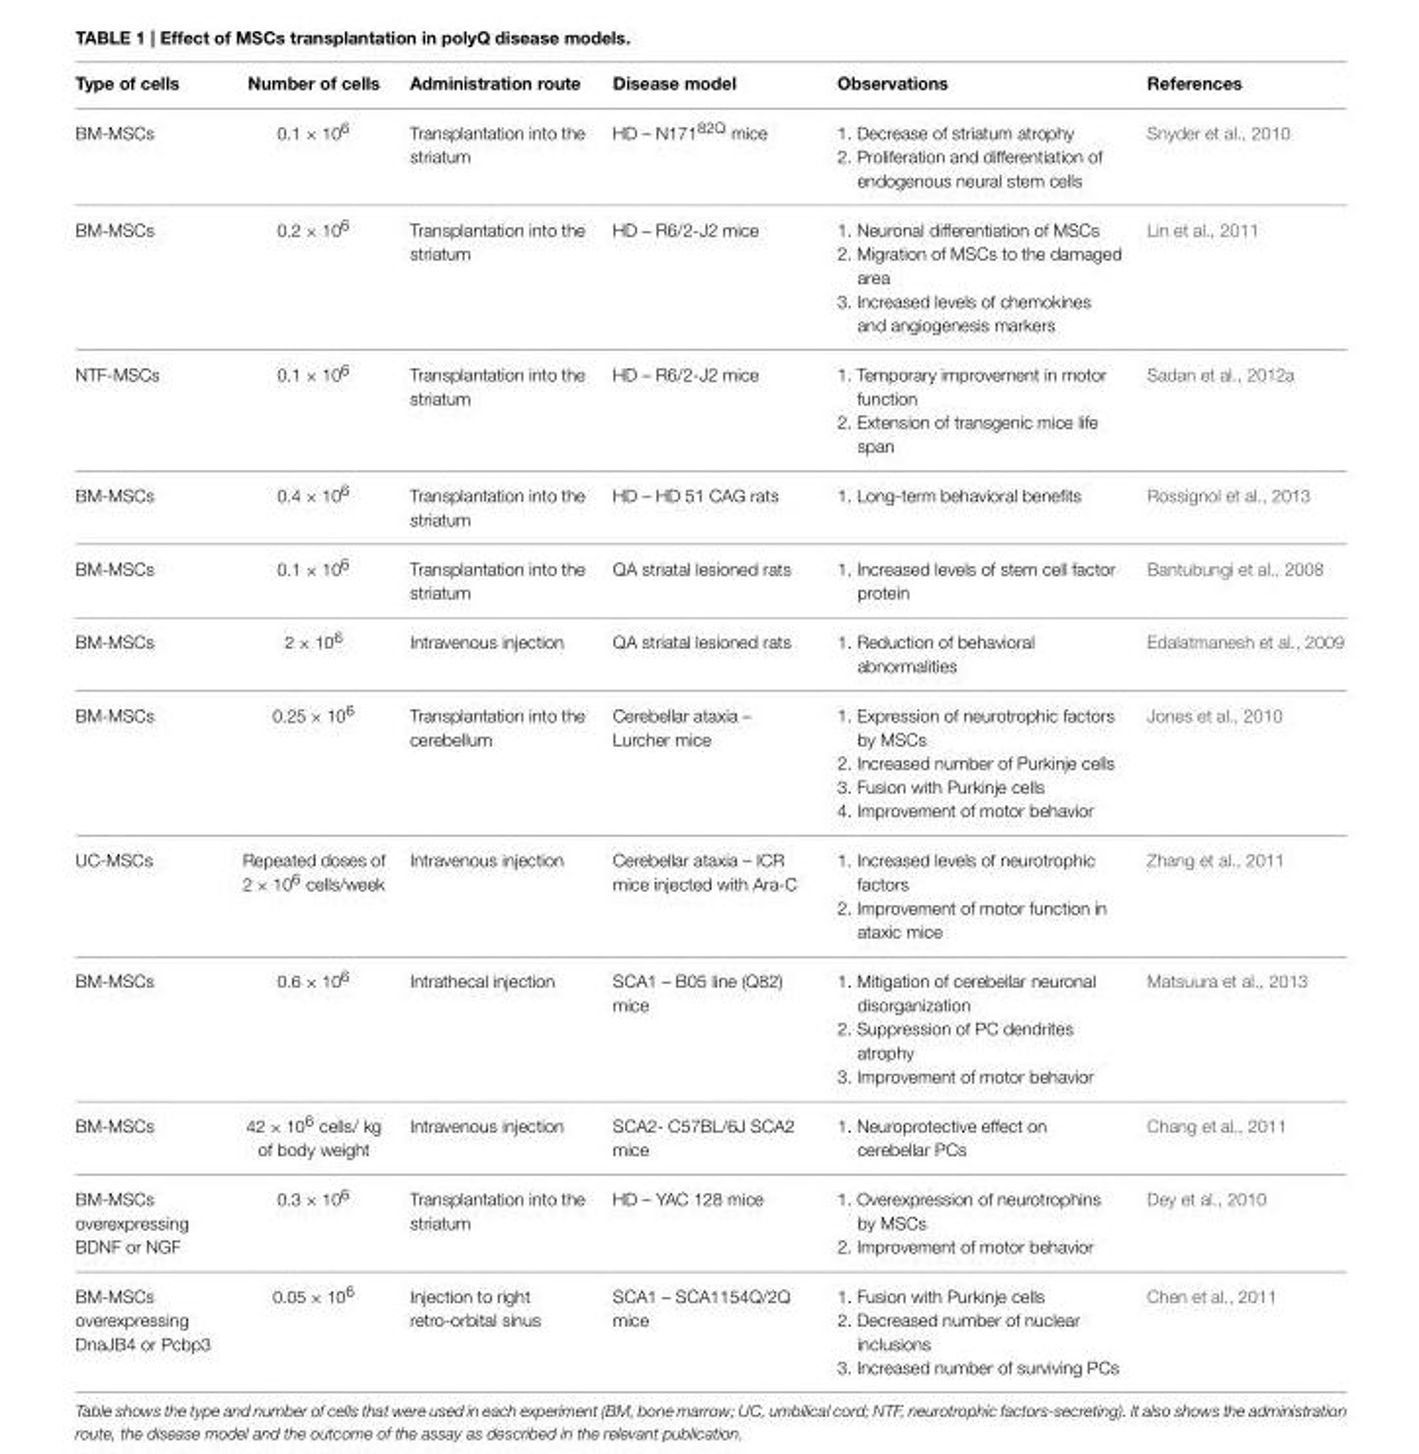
<table><thead><tr><td>Type of cells</td><td>Number of cells</td><td>Administration route</td><td>Disease model</td><td>Observations</td><td>References</td></tr></thead><tbody><tr><td>BM-MSCs</td><td>0.1 × 10<sup>6</sup></td><td>Transplantation into the striatum</td><td>HD – N171<sup>82Q</sup> mice</td><td>1. Decrease of striatum atrophy 2. Proliferation and differentiation of endogenous neural stem cells</td><td>Snyder et al., 2010</td></tr><tr><td>BM-MSCs</td><td>0.2 × 10<sup>6</sup></td><td>Transplantation into the striatum</td><td>HD – R6/2-J2 mice</td><td>1. Neuronal differentiation of MSCs 2. Migration of MSCs to the damaged area 3. Increased levels of chemokines and angiogenesis markers</td><td>Lin et al., 2011</td></tr><tr><td>NTF-MSCs</td><td>0.1 × 10<sup>6</sup></td><td>Transplantation into the striatum</td><td>HD – R6/2-J2 mice</td><td>1. Temporary improvement in motor function 2. Extension of transgenic mice life span</td><td>Sadan et al., 2012a</td></tr><tr><td>BM-MSCs</td><td>0.4 × 10<sup>6</sup></td><td>Transplantation into the striatum</td><td>HD – HD 51 CAG rats</td><td>1. Long-term behavioral benefits</td><td>Rossignol et al., 2013</td></tr><tr><td>BM-MSCs</td><td>0.1 × 10<sup>6</sup></td><td>Transplantation into the striatum</td><td>QA striatal lesioned rats</td><td>1. Increased levels of stem cell factor protein</td><td>Bantubungi et al., 2008</td></tr><tr><td>BM-MSCs</td><td>2 × 10<sup>6</sup></td><td>Intravenous injection</td><td>QA striatal lesioned rats</td><td>1. Reduction of behavioral abnormalities</td><td>Edalatmanesh et al., 2009</td></tr><tr><td>BM-MSCs</td><td>0.25 × 10<sup>6</sup></td><td>Transplantation into the cerebellum</td><td>Cerebellar ataxia – Lurcher mice</td><td>1. Expression of neurotrophic factors by MSCs 2. Increased number of Purkinje cells 3. Fusion with Purkinje cells 4. Improvement of motor behavior</td><td>Jones et al., 2010</td></tr><tr><td>UC-MSCs</td><td>Repeated doses of 2 × 10<sup>6</sup> cells/week</td><td>Intravenous injection</td><td>Cerebellar ataxia – ICR mice injected with Ara-C</td><td>1. Increased levels of neurotrophic factors 2. Improvement of motor function in ataxic mice</td><td>Zhang et al., 2011</td></tr><tr><td>BM-MSCs</td><td>0.6 × 10<sup>6</sup></td><td>Intrathecal injection</td><td>SCA1 – B05 line (Q82) mice</td><td>1. Mitigation of cerebellar neuronal disorganization 2. Suppression of PC dendrites atrophy 3. Improvement of motor behavior</td><td>Matsuura et al., 2013</td></tr><tr><td>BM-MSCs</td><td>42 × 10<sup>6</sup> cells/ kg of body weight</td><td>Intravenous injection</td><td>SCA2- C57BL/6J SCA2 mice</td><td>1. Neuroprotective effect on cerebellar PCs</td><td>Chang et al., 2011</td></tr><tr><td>BM-MSCs overexpressing BDNF or NGF</td><td>0.3 × 10<sup>6</sup></td><td>Transplantation into the striatum</td><td>HD – YAC 128 mice</td><td>1. Overexpression of neurotrophins by MSCs 2. Improvement of motor behavior</td><td>Dey et al., 2010</td></tr><tr><td>BM-MSCs overexpressing DnaJB4 or Pcbp3</td><td>0.05 × 10<sup>6</sup></td><td>Injection to right retro-orbital sinus</td><td>SCA1 – SCA1154Q/2Q mice</td><td>1. Fusion with Purkinje cells 2. Decreased number of nuclear inclusions 3. Increased number of surviving PCs</td><td>Chen et al., 2011</td></tr></tbody></table>